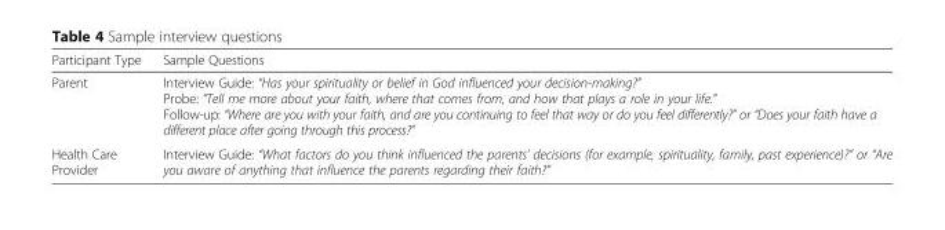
<table><thead><tr><td>Participant Type</td><td>Sample Questions</td></tr></thead><tbody><tr><td>Parent</td><td>Interview Guide: “Has your spirituality or belief in God influenced your decision-making?” Probe: “Tell me more about your faith, where that comes from, and how that plays a role in your life.” Follow-up: “Where are you with your faith, and are you continuing to feel that way or do you feel differently?” or “Does your faith have a different place after going through this process?”</td></tr><tr><td>Health Care Provider</td><td>Interview Guide: “What factors do you think influenced the parents’ decisions (for example, spirituality, family, past experience)?” or “Are you aware of anything that influence the parents regarding their faith?”</td></tr></tbody></table>